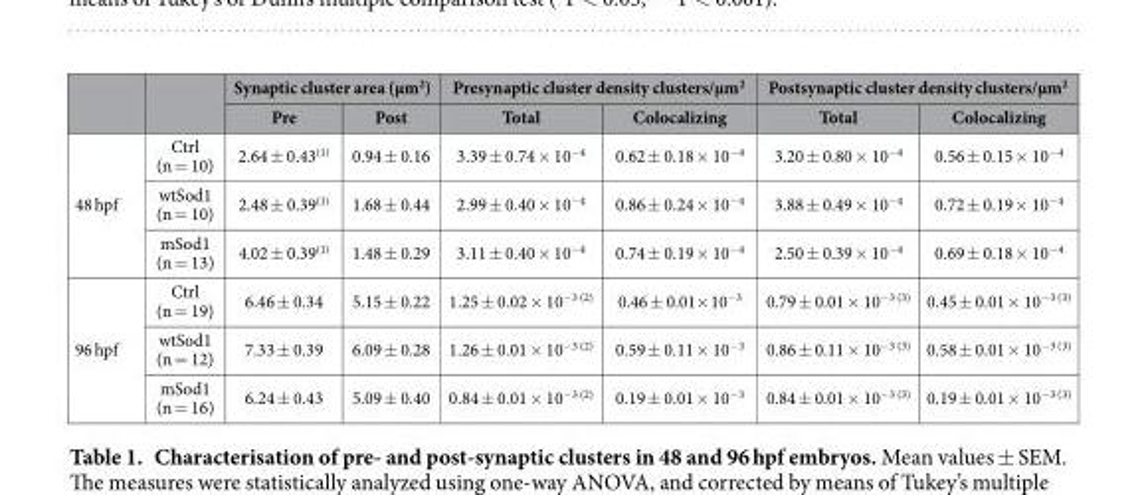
<table><thead><tr><td rowspan="2"></td><td rowspan="2"></td><td colspan="2">Synaptic cluster area (μm<sup>2</sup>)</td><td colspan="2">Presynaptic cluster density clusters/μm<sup>2</sup></td><td colspan="2">Postsynaptic cluster density clusters/μm<sup>2</sup></td></tr><tr><td>Pre</td><td>Post</td><td>Total</td><td>Colocalizing</td><td>Total</td><td>Colocalizing</td></tr></thead><tbody><tr><td rowspan="3">48 hpf</td><td>Ctrl (n = 10)</td><td>2.64 ± 0.43<sup>(1)</sup></td><td>0.94 ± 0.16</td><td>3.39 ± 0.74 × 10<sup>−4</sup></td><td>0.62 ± 0.18 × 10<sup>−4</sup></td><td>3.20 ± 0.80 × 10<sup>−4</sup></td><td>0.56 ± 0.15 × 10<sup>−4</sup></td></tr><tr><td>wtSod1 (n = 10)</td><td>2.48 ± 0.39<sup>(1)</sup></td><td>1.68 ± 0.44</td><td>2.99 ± 0.40 × 10<sup>−4</sup></td><td>0.86 ± 0.24 × 10<sup>−4</sup></td><td>3.88 ± 0.49 × 10<sup>−4</sup></td><td>0.72 ± 0.19 × 10<sup>−4</sup></td></tr><tr><td>mSod1 (n = 13)</td><td>4.02 ± 0.39<sup>(1)</sup></td><td>1.48 ± 0.29</td><td>3.11 ± 0.40 × 10<sup>−4</sup></td><td>0.74 ± 0.19 × 10<sup>−4</sup></td><td>2.50 ± 0.39 × 10<sup>−4</sup></td><td>0.69 ± 0.18 × 10<sup>−4</sup></td></tr><tr><td rowspan="3">96 hpf</td><td>Ctrl (n = 19)</td><td>6.46 ± 0.34</td><td>5.15 ± 0.22</td><td>1.25 ± 0.02 × 10<sup>−3 (2)</sup></td><td>0.46 ± 0.01× 10<sup>−3</sup></td><td>0.79 ± 0.01 × 10<sup>−3 (3)</sup></td><td>0.45 ± 0.01 × 10<sup>−3 (3)</sup></td></tr><tr><td>wtSod1 (n = 12)</td><td>7.33 ± 0.39</td><td>6.09 ± 0.28</td><td>1.26 ± 0.01 × 10<sup>−3 (2)</sup></td><td>0.59 ± 0.11 × 10<sup>−3</sup></td><td>0.86 ± 0.11 × 10<sup>−3 (3)</sup></td><td>0.58 ± 0.01 × 10<sup>−3 (3)</sup></td></tr><tr><td>mSod1 (n = 16)</td><td>6.24 ± 0.43</td><td>5.09 ± 0.40</td><td>0.84 ± 0.01 × 10<sup>−3 (2)</sup></td><td>0.19 ± 0.01 × 10<sup>−3</sup></td><td>0.84 ± 0.01 × 10<sup>−3 (3)</sup></td><td>0.19 ± 0.01 × 10<sup>−3 (3)</sup></td></tr></tbody></table>